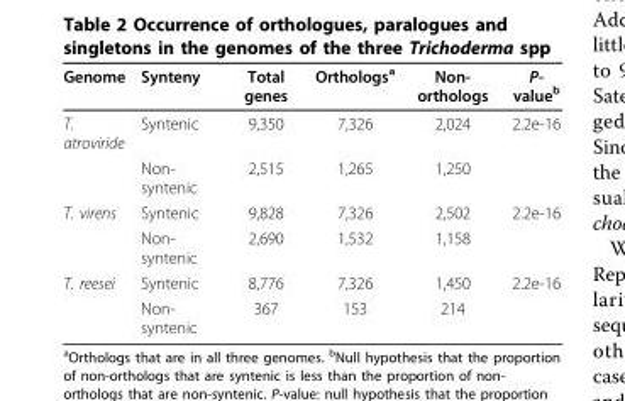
<table><thead><tr><td>Genome</td><td>Synteny</td><td>Total genes</td><td>Orthologs<sup>a</sup></td><td>Non- orthologs</td><td>P- value<sup>b</sup></td></tr></thead><tbody><tr><td rowspan="2">T. atroviride</td><td>Syntenic</td><td>9,350</td><td>7,326</td><td>2,024</td><td>2.2e-16</td></tr><tr><td>Non- syntenic</td><td>2,515</td><td>1,265</td><td>1,250</td><td></td></tr><tr><td rowspan="2">T. virens</td><td>Syntenic</td><td>9,828</td><td>7,326</td><td>2,502</td><td>2.2e-16</td></tr><tr><td>Non- syntenic</td><td>2,690</td><td>1,532</td><td>1,158</td><td></td></tr><tr><td rowspan="2">T. reesei</td><td>Syntenic</td><td>8,776</td><td>7,326</td><td>1,450</td><td>2.2e-16</td></tr><tr><td>Non- syntenic</td><td>367</td><td>153</td><td>214</td><td></td></tr></tbody></table>